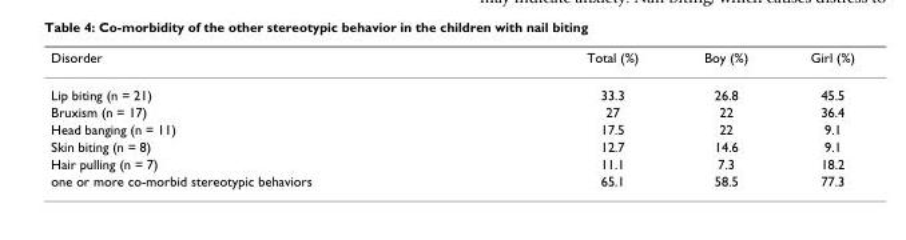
<table><thead><tr><td>Disorder</td><td>Total (%)</td><td>Boy (%)</td><td>Girl (%)</td></tr></thead><tbody><tr><td>Lip biting (n = 21)</td><td>33.3</td><td>26.8</td><td>45.5</td></tr><tr><td>Bruxism (n = 17)</td><td>27</td><td>22</td><td>36.4</td></tr><tr><td>Head banging (n = 11)</td><td>17.5</td><td>22</td><td>9.1</td></tr><tr><td>Skin biting (n = 8)</td><td>12.7</td><td>14.6</td><td>9.1</td></tr><tr><td>Hair pulling (n = 7)</td><td>11.1</td><td>7.3</td><td>18.2</td></tr><tr><td>one or more co-morbid stereotypic behaviors</td><td>65.1</td><td>58.5</td><td>77.3</td></tr></tbody></table>